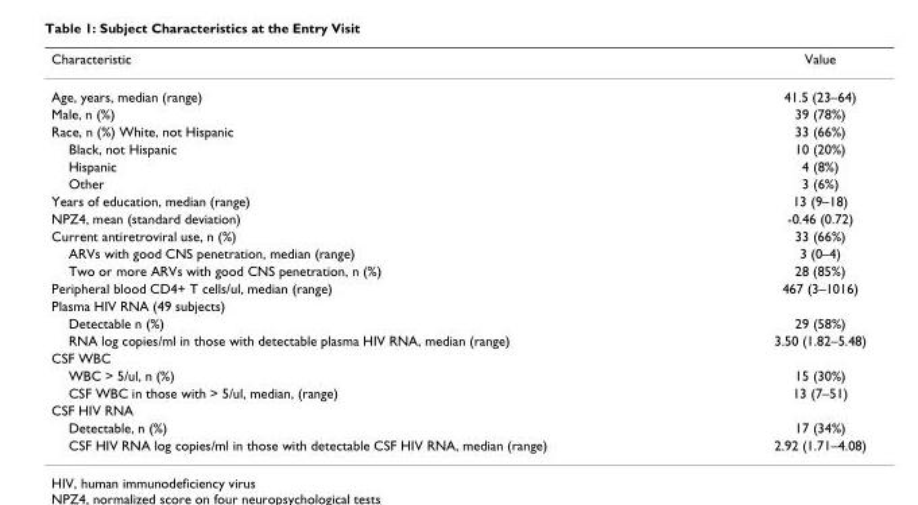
<table><thead><tr><td>Characteristic</td><td>Value</td></tr></thead><tbody><tr><td>Age, years, median (range)</td><td>41.5 (23–64)</td></tr><tr><td>Male, n (%)</td><td>39 (78%)</td></tr><tr><td>Race, n (%) White, not Hispanic</td><td>33 (66%)</td></tr><tr><td>Black, not Hispanic</td><td>10 (20%)</td></tr><tr><td>Hispanic</td><td>4 (8%)</td></tr><tr><td>Other</td><td>3 (6%)</td></tr><tr><td>Years of education, median (range)</td><td>13 (9–18)</td></tr><tr><td>NPZ4, mean (standard deviation)</td><td>-0.46 (0.72)</td></tr><tr><td>Current antiretroviral use, n (%)</td><td>33 (66%)</td></tr><tr><td>ARVs with good CNS penetration, median (range)</td><td>3 (0–4)</td></tr><tr><td>Two or more ARVs with good CNS penetration, n (%)</td><td>28 (85%)</td></tr><tr><td>Peripheral blood CD4+ T cells/ul, median (range)</td><td>467 (3–1016)</td></tr><tr><td colspan="2">Plasma HIV RNA (49 subjects)</td></tr><tr><td>Detectable n (%)</td><td>29 (58%)</td></tr><tr><td>RNA log copies/ml in those with detectable plasma HIV RNA, median (range)</td><td>3.50 (1.82–5.48)</td></tr><tr><td colspan="2">CSF WBC</td></tr><tr><td>WBC &gt; 5/ul, n (%)</td><td>15 (30%)</td></tr><tr><td>CSF WBC in those with &gt; 5/ul, median, (range)</td><td>13 (7–51)</td></tr><tr><td colspan="2">CSF HIV RNA</td></tr><tr><td>Detectable, n (%)</td><td>17 (34%)</td></tr><tr><td>CSF HIV RNA log copies/ml in those with detectable CSF HIV RNA, median (range)</td><td>2.92 (1.71–4.08)</td></tr></tbody></table>